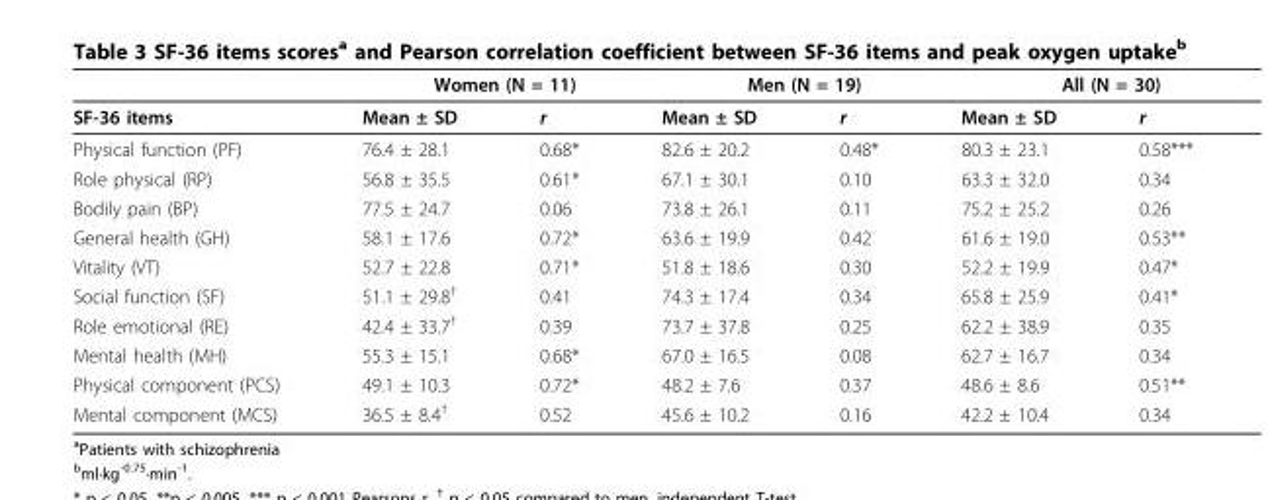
<table><thead><tr><td rowspan="2">SF-36 items</td><td colspan="2">Women (N = 11)</td><td colspan="2">Men (N = 19)</td><td colspan="2">All (N = 30)</td></tr><tr><td>Mean ± SD</td><td>r</td><td>Mean ± SD</td><td>r</td><td>Mean ± SD</td><td>r</td></tr></thead><tbody><tr><td>Physical function (PF)</td><td>76.4 ± 28.1</td><td>0.68*</td><td>82.6 ± 20.2</td><td>0.48*</td><td>80.3 ± 23.1</td><td>0.58***</td></tr><tr><td>Role physical (RP)</td><td>56.8 ± 35.5</td><td>0.61*</td><td>67.1 ± 30.1</td><td>0.10</td><td>63.3 ± 32.0</td><td>0.34</td></tr><tr><td>Bodily pain (BP)</td><td>77.5 ± 24.7</td><td>0.06</td><td>73.8 ± 26.1</td><td>0.11</td><td>75.2 ± 25.2</td><td>0.26</td></tr><tr><td>General health (GH)</td><td>58.1 ± 17.6</td><td>0.72*</td><td>63.6 ± 19.9</td><td>0.42</td><td>61.6 ± 19.0</td><td>0.53**</td></tr><tr><td>Vitality (VT)</td><td>52.7 ± 22.8</td><td>0.71*</td><td>51.8 ± 18.6</td><td>0.30</td><td>52.2 ± 19.9</td><td>0.47*</td></tr><tr><td>Social function (SF)</td><td>51.1 ± 29.8<sup>†</sup></td><td>0.41</td><td>74.3 ± 17.4</td><td>0.34</td><td>65.8 ± 25.9</td><td>0.41*</td></tr><tr><td>Role emotional (RE)</td><td>42.4 ± 33.7<sup>†</sup></td><td>0.39</td><td>73.7 ± 37.8</td><td>0.25</td><td>62.2 ± 38.9</td><td>0.35</td></tr><tr><td>Mental health (MH)</td><td>55.3 ± 15.1</td><td>0.68*</td><td>67.0 ± 16.5</td><td>0.08</td><td>62.7 ± 16.7</td><td>0.34</td></tr><tr><td>Physical component (PCS)</td><td>49.1 ± 10.3</td><td>0.72*</td><td>48.2 ± 7.6</td><td>0.37</td><td>48.6 ± 8.6</td><td>0.51**</td></tr><tr><td>Mental component (MCS)</td><td>36.5 ± 8.4<sup>†</sup></td><td>0.52</td><td>45.6 ± 10.2</td><td>0.16</td><td>42.2 ± 10.4</td><td>0.34</td></tr></tbody></table>